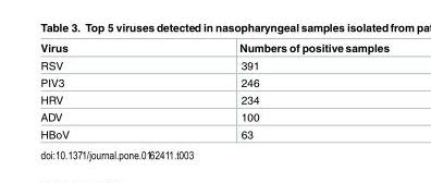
<table><thead><tr><td>Virus</td><td>Numbers of positive samples</td></tr></thead><tbody><tr><td>RSV</td><td>391</td></tr><tr><td>PIV3</td><td>246</td></tr><tr><td>HRV</td><td>234</td></tr><tr><td>ADV</td><td>100</td></tr><tr><td>HBoV</td><td>63</td></tr></tbody></table>